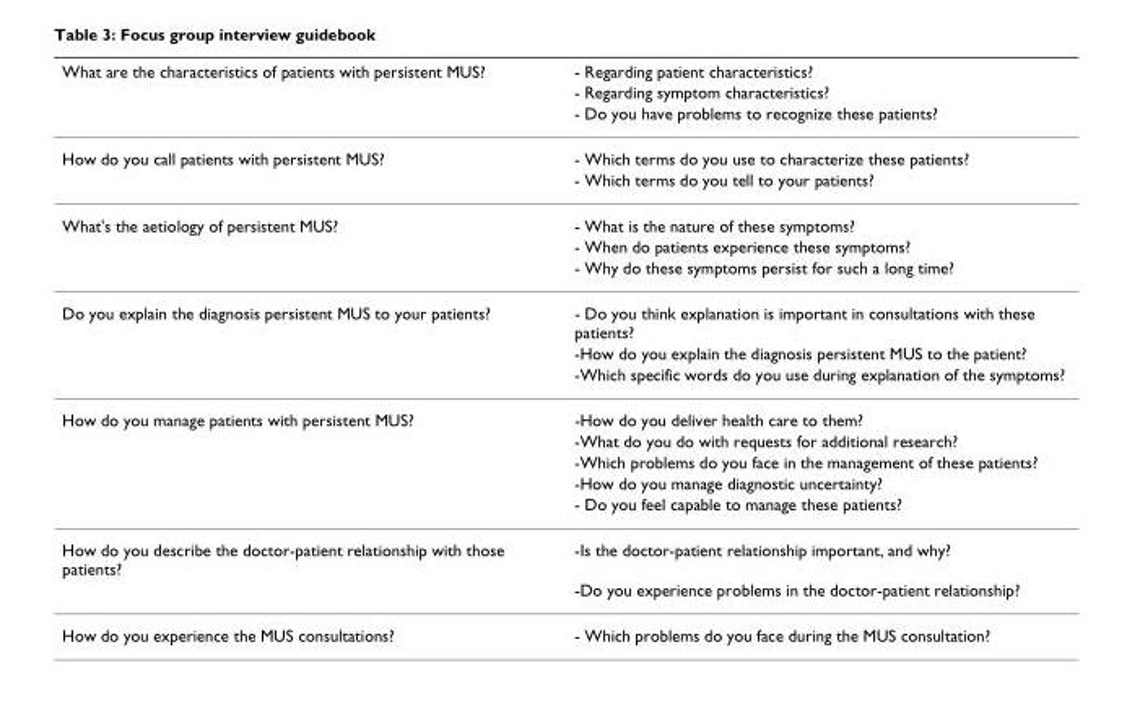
<table><thead><tr><td rowspan="3">What are the characteristics of patients with persistent MUS?</td><td rowspan="3">- Regarding patient characteristics? - Regarding symptom characteristics? - Do you have problems to recognize these patients?</td></tr><tr></tr><tr></tr></thead><tbody><tr><td rowspan="2">How do you call patients with persistent MUS?</td><td>- Which terms do you use to characterize these patients?</td></tr><tr><td>- Which terms do you tell to your patients?</td></tr><tr><td rowspan="3">What&#x27;s the aetiology of persistent MUS?</td><td>- What is the nature of these symptoms?</td></tr><tr><td>- When do patients experience these symptoms?</td></tr><tr><td>- Why do these symptoms persist for such a long time?</td></tr><tr><td rowspan="3">Do you explain the diagnosis persistent MUS to your patients?</td><td>- Do you think explanation is important in consultations with these patients?</td></tr><tr><td>-How do you explain the diagnosis persistent MUS to the patient?</td></tr><tr><td>-Which specific words do you use during explanation of the symptoms?</td></tr><tr><td rowspan="5">How do you manage patients with persistent MUS?</td><td>-How do you deliver health care to them?</td></tr><tr><td>-What do you do with requests for additional research?</td></tr><tr><td>-Which problems do you face in the management of these patients?</td></tr><tr><td>-How do you manage diagnostic uncertainty?</td></tr><tr><td>- Do you feel capable to manage these patients?</td></tr><tr><td rowspan="2">How do you describe the doctor-patient relationship with those patients?</td><td>-Is the doctor-patient relationship important, and why?</td></tr><tr><td>-Do you experience problems in the doctor-patient relationship?</td></tr><tr><td>How do you experience the MUS consultations?</td><td>- Which problems do you face during the MUS consultation?</td></tr></tbody></table>